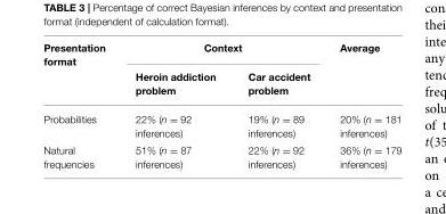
<table><thead><tr><td rowspan="2">Presentation format</td><td colspan="2">Context</td><td rowspan="2">Average</td></tr><tr><td>Heroin addiction problem</td><td>Car accident problem</td></tr></thead><tbody><tr><td>Probabilities</td><td>22% (n = 92 inferences)</td><td>19% (n = 89 inferences)</td><td>20% (n = 181 inferences)</td></tr><tr><td>Natural frequencies</td><td>51% (n = 87 inferences)</td><td>22% (n = 92 inferences)</td><td>36% (n = 179 inferences)</td></tr></tbody></table>